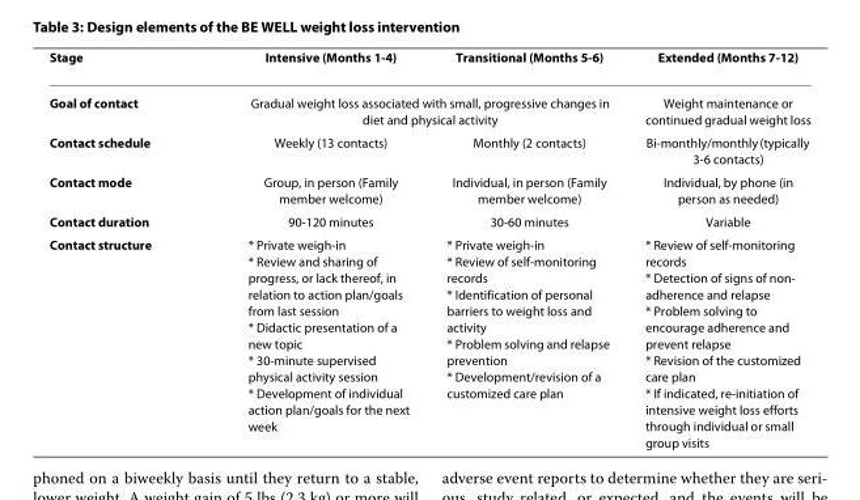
<table><thead><tr><td>Stage</td><td>Intensive (Months 1-4)</td><td>Transitional (Months 5-6)</td><td>Extended (Months 7-12)</td></tr></thead><tbody><tr><td>Goal of contact</td><td colspan="2">Gradual weight loss associated with small, progressive changes in diet and physical activity</td><td>Weight maintenance or continued gradual weight loss</td></tr><tr><td>Contact schedule</td><td>Weekly (13 contacts)</td><td>Monthly (2 contacts)</td><td>Bi-monthly/monthly (typically 3-6 contacts)</td></tr><tr><td>Contact mode</td><td>Group, in person (Family member welcome)</td><td>Individual, in person (Family member welcome)</td><td>Individual, by phone (in person as needed)</td></tr><tr><td>Contact duration</td><td>90-120 minutes</td><td>30-60 minutes</td><td>Variable</td></tr><tr><td>Contact structure</td><td>* Private weigh-in * Review and sharing of progress, or lack thereof, in relation to action plan/goals from last session * Didactic presentation of a new topic * 30-minute supervised physical activity session * Development of individual action plan/goals for the next week</td><td>* Private weigh-in * Review of self-monitoring records * Identification of personal barriers to weight loss and activity * Problem solving and relapse prevention * Development/revision of a customized care plan</td><td>* Review of self-monitoring records * Detection of signs of non- adherence and relapse * Problem solving to encourage adherence and prevent relapse * Revision of the customized care plan * If indicated, re-initiation of intensive weight loss efforts through individual or small group visits</td></tr></tbody></table>